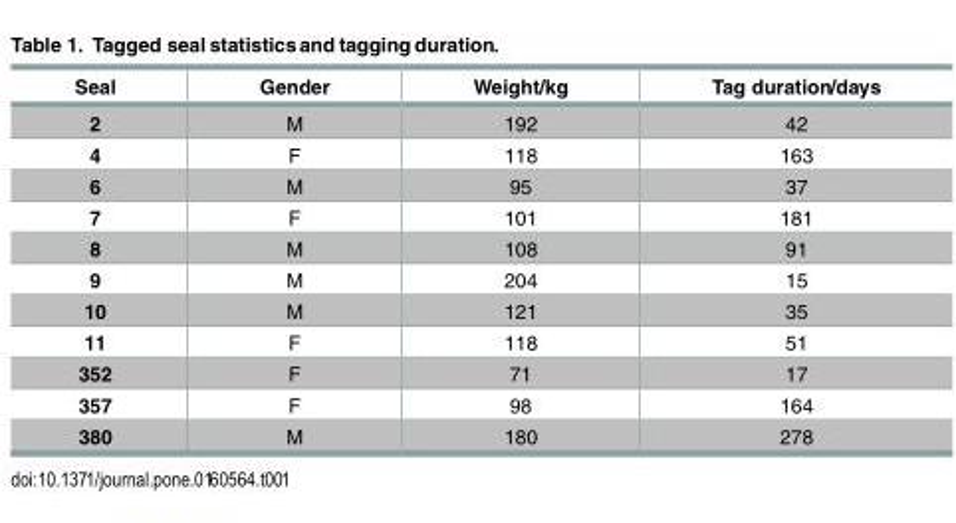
<table><thead><tr><td>Seal</td><td>Gender</td><td>Weight/kg</td><td>Tag duration/days</td></tr></thead><tbody><tr><td>2</td><td>M</td><td>192</td><td>42</td></tr><tr><td>4</td><td>F</td><td>118</td><td>163</td></tr><tr><td>6</td><td>M</td><td>95</td><td>37</td></tr><tr><td>7</td><td>F</td><td>101</td><td>181</td></tr><tr><td>8</td><td>M</td><td>108</td><td>91</td></tr><tr><td>9</td><td>M</td><td>204</td><td>15</td></tr><tr><td>10</td><td>M</td><td>121</td><td>35</td></tr><tr><td>11</td><td>F</td><td>118</td><td>51</td></tr><tr><td>352</td><td>F</td><td>71</td><td>17</td></tr><tr><td>357</td><td>F</td><td>98</td><td>164</td></tr><tr><td>380</td><td>M</td><td>180</td><td>278</td></tr></tbody></table>